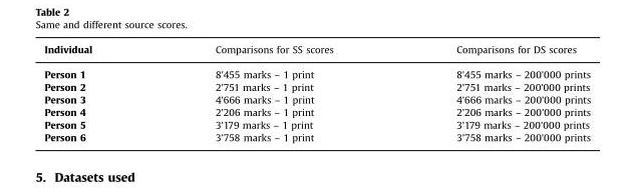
<table><thead><tr><td>Individual</td><td>Comparisons for SS scores</td><td>Comparisons for DS scores</td></tr></thead><tbody><tr><td>Person 1</td><td>8’455 marks – 1 print</td><td>8’455 marks – 200’000 prints</td></tr><tr><td>Person 2</td><td>2’751 marks – 1 print</td><td>2’751 marks – 200’000 prints</td></tr><tr><td>Person 3</td><td>4’666 marks – 1 print</td><td>4’666 marks – 200’000 prints</td></tr><tr><td>Person 4</td><td>2’206 marks – 1 print</td><td>2’206 marks – 200’000 prints</td></tr><tr><td>Person 5</td><td>3’179 marks – 1 print</td><td>3’179 marks – 200’000 prints</td></tr><tr><td>Person 6</td><td>3’758 marks – 1 print</td><td>3’758 marks – 200’000 prints</td></tr></tbody></table>